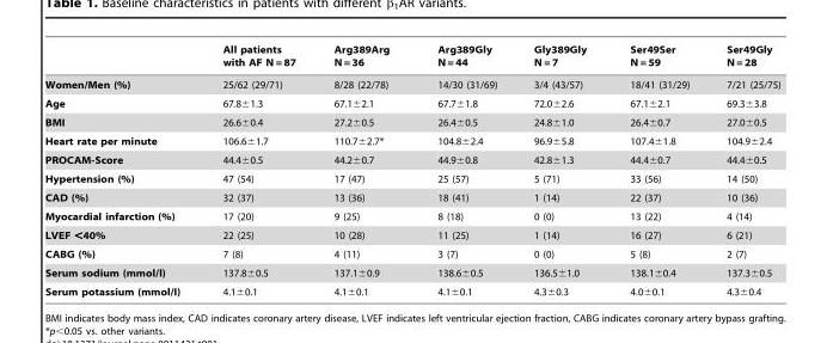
<table><thead><tr><td></td><td>All patients with AF N = 87</td><td>Arg389Arg N = 36</td><td>Arg389Gly N = 44</td><td>Gly389Gly N = 7</td><td>Ser49Ser N = 59</td><td>Ser49Gly N = 28</td></tr></thead><tbody><tr><td>Women/Men (%)</td><td>25/62 (29/71)</td><td>8/28 (22/78)</td><td>14/30 (31/69)</td><td>3/4 (43/57)</td><td>18/41 (31/29)</td><td>7/21 (25/75)</td></tr><tr><td>Age</td><td>67.8±1.3</td><td>67.1±2.1</td><td>67.7±1.8</td><td>72.0±2.6</td><td>67.1±2.1</td><td>69.3±3.8</td></tr><tr><td>BMI</td><td>26.6±0.4</td><td>27.2±0.5</td><td>26.4±0.5</td><td>24.8±1.0</td><td>26.4±0.7</td><td>27.0±0.5</td></tr><tr><td>Heart rate per minute</td><td>106.6±1.7</td><td>110.7±2.7*</td><td>104.8±2.4</td><td>96.9±5.8</td><td>107.4±1.8</td><td>104.9±2.4</td></tr><tr><td>PROCAM-Score</td><td>44.4±0.5</td><td>44.2±0.7</td><td>44.9±0.8</td><td>42.8±1.3</td><td>44.4±0.7</td><td>44.4±0.5</td></tr><tr><td>Hypertension (%)</td><td>47 (54)</td><td>17 (47)</td><td>25 (57)</td><td>5 (71)</td><td>33 (56)</td><td>14 (50)</td></tr><tr><td>CAD (%)</td><td>32 (37)</td><td>13 (36)</td><td>18 (41)</td><td>1 (14)</td><td>22 (37)</td><td>10 (36)</td></tr><tr><td>Myocardial infarction (%)</td><td>17 (20)</td><td>9 (25)</td><td>8 (18)</td><td>0 (0)</td><td>13 (22)</td><td>4 (14)</td></tr><tr><td>LVEF &lt;40%</td><td>22 (25)</td><td>10 (28)</td><td>11 (25)</td><td>1 (14)</td><td>16 (27)</td><td>6 (21)</td></tr><tr><td>CABG (%)</td><td>7 (8)</td><td>4 (11)</td><td>3 (7)</td><td>0 (0)</td><td>5 (8)</td><td>2 (7)</td></tr><tr><td>Serum sodium (mmol/l)</td><td>137.8±0.5</td><td>137.1±0.9</td><td>138.6±0.5</td><td>136.5±1.0</td><td>138.1±0.4</td><td>137.3±0.5</td></tr><tr><td>Serum potassium (mmol/I)</td><td>4.1±0.1</td><td>4.1±0.1</td><td>4.1±0.1</td><td>4.3±0.3</td><td>4.0±0.1</td><td>4.3±0.4</td></tr></tbody></table>